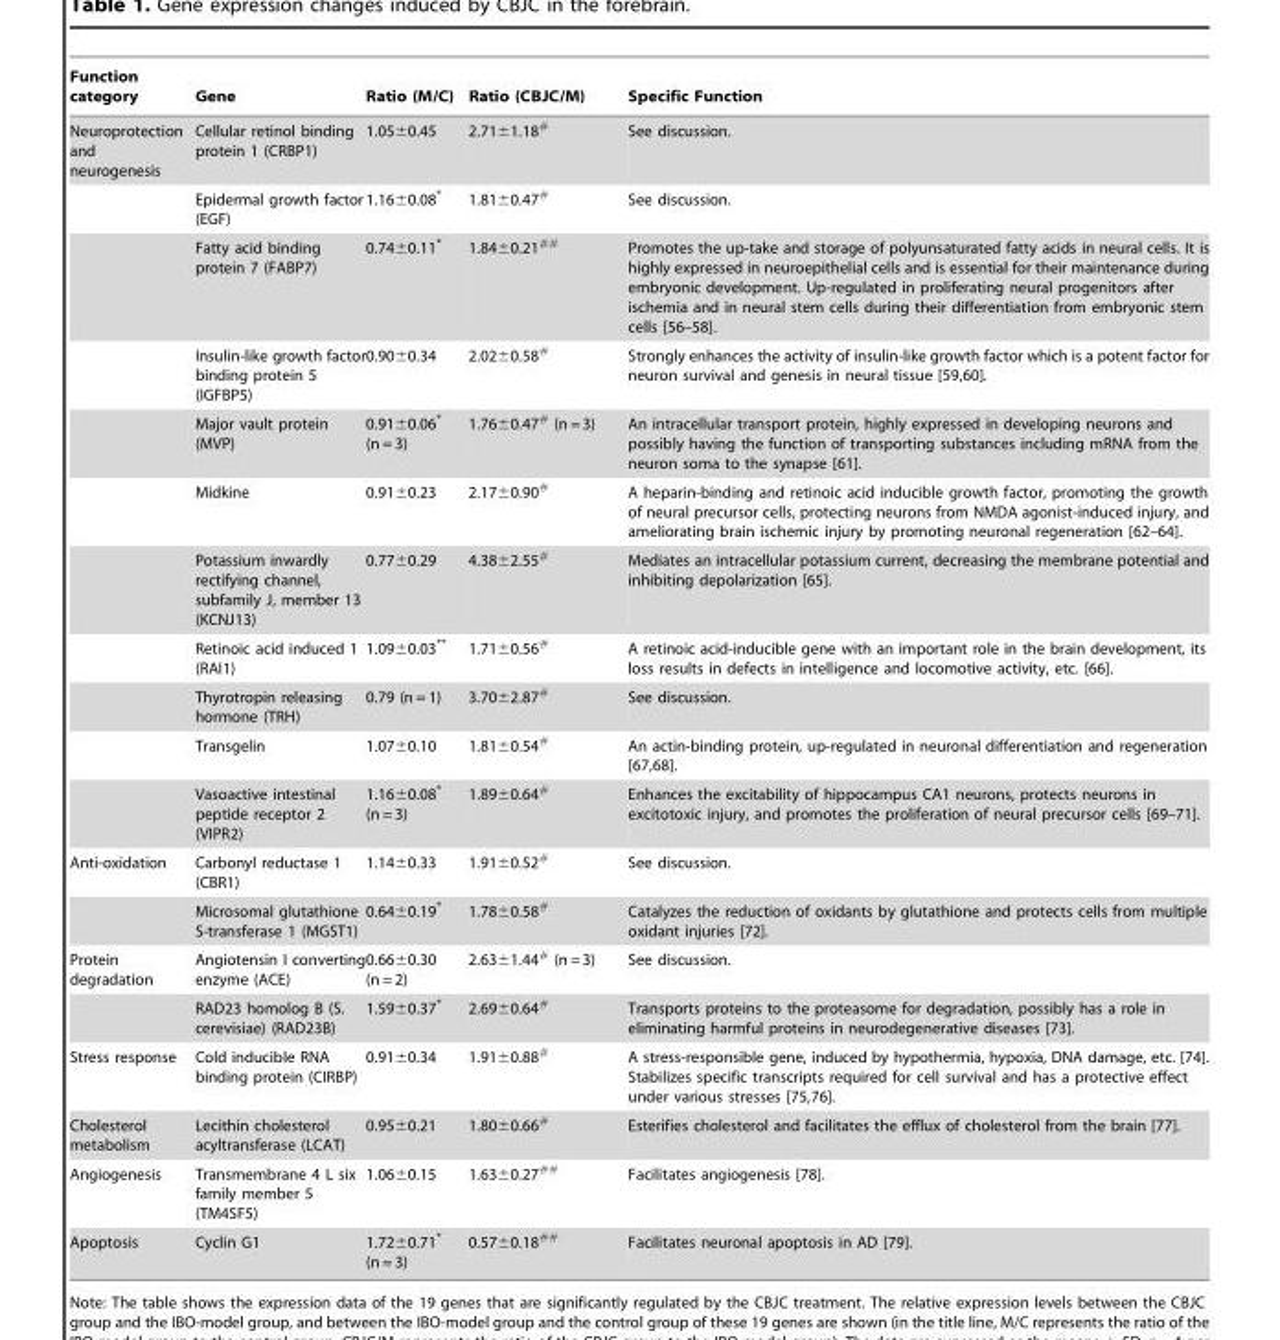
<table><thead><tr><td>Function category</td><td>Gene</td><td>Ratio (M/C)</td><td>Ratio (CBJC/M)</td><td>Specific Function</td></tr></thead><tbody><tr><td rowspan="11">Neuroprotection and neurogenesis</td><td>Cellular retinol binding protein 1 (CRBP1)</td><td>1.05±0.45</td><td>2.71±1.18<sup>#</sup></td><td>See discussion.</td></tr><tr><td>Epidermal growth factor (EGF)</td><td>1.16±0.08*</td><td>1.81±0.47<sup>#</sup></td><td>See discussion.</td></tr><tr><td>Fatty acid binding protein 7 (FABP7)</td><td>0.74±0.11*</td><td>1.84±0.21<sup>##</sup></td><td>Promotes the up-take and storage of polyunsaturated fatty acids in neural cells. It is highly expressed in neuroepithelial cells and is essential for their maintenance during embryonic development. Up-regulated in proliferating neural progenitors after ischemia and in neural stem cells during their differentiation from embryonic stem cells [56–58].</td></tr><tr><td>Insulin-like growth factor binding protein 5 (IGFBP5)</td><td>0.90±0.34</td><td>2.02±0.58<sup>#</sup></td><td>Strongly enhances the activity of insulin-like growth factor which is a potent factor for neuron survival and genesis in neural tissue [59,60].</td></tr><tr><td>Major vault protein (MVP)</td><td>0.91±0.06* (n = 3)</td><td>1.76±0.47<sup>#</sup> (n = 3)</td><td>An intracellular transport protein, highly expressed in developing neurons and possibly having the function of transporting substances including mRNA from the neuron soma to the synapse [61].</td></tr><tr><td>Midkine</td><td>0.91±0.23</td><td>2.17±0.90<sup>#</sup></td><td>A heparin-binding and retinoic acid inducible growth factor, promoting the growth of neural precursor cells, protecting neurons from NMDA agonist-induced injury, and ameliorating brain ischemic injury by promoting neuronal regeneration [62–64].</td></tr><tr><td>Potassium inwardly rectifying channel, subfamily J, member 13 (KCNJ13)</td><td>0.77±0.29</td><td>4.38±2.55<sup>#</sup></td><td>Mediates an intracellular potassium current, decreasing the membrane potential and inhibiting depolarization [65].</td></tr><tr><td>Retinoic acid induced 1 (RAI1)</td><td>1.09±0.03**</td><td>1.71±0.56<sup>#</sup></td><td>A retinoic acid-inducible gene with an important role in the brain development, its loss results in defects in intelligence and locomotive activity, etc. [66].</td></tr><tr><td>Thyrotropin releasing hormone (TRH)</td><td>0.79 (n = 1)</td><td>3.70±2.87<sup>#</sup></td><td>See discussion.</td></tr><tr><td>Transgelin</td><td>1.07±0.10</td><td>1.81±0.54<sup>#</sup></td><td>An actin-binding protein, up-regulated in neuronal differentiation and regeneration [67,68].</td></tr><tr><td>Vasoactive intestinal peptide receptor 2 (VIPR2)</td><td>1.16±0.08* (n = 3)</td><td>1.89±0.64<sup>#</sup></td><td>Enhances the excitability of hippocampus CA1 neurons, protects neurons in excitotoxic injury, and promotes the proliferation of neural precursor cells [69–71].</td></tr><tr><td rowspan="2">Anti-oxidation</td><td>Carbonyl reductase 1 (CBR1)</td><td>1.14±0.33</td><td>1.91±0.52<sup>#</sup></td><td>See discussion.</td></tr><tr><td>Microsomal glutathione S-transferase 1 (MGST1)</td><td>0.64±0.19*</td><td>1.78±0.58<sup>#</sup></td><td>Catalyzes the reduction of oxidants by glutathione and protects cells from multiple oxidant injuries [72].</td></tr><tr><td rowspan="2">Protein degradation</td><td>Angiotensin I converting enzyme (ACE)</td><td>0.66±0.30 (n = 2)</td><td>2.63±1.44<sup>#</sup> (n = 3)</td><td>See discussion.</td></tr><tr><td>RAD23 homolog B (S. cerevisiae) (RAD23B)</td><td>1.59±0.37*</td><td>2.69±0.64<sup>#</sup></td><td>Transports proteins to the proteasome for degradation, possibly has a role in eliminating harmful proteins in neurodegenerative diseases [73].</td></tr><tr><td>Stress response</td><td>Cold inducible RNA binding protein (CIRBP)</td><td>0.91±0.34</td><td>1.91±0.88<sup>#</sup></td><td>A stress-responsible gene, induced by hypothermia, hypoxia, DNA damage, etc. [74]. Stabilizes specific transcripts required for cell survival and has a protective effect under various stresses [75,76].</td></tr><tr><td>Cholesterol metabolism</td><td>Lecithin cholesterol acyltransferase (LCAT)</td><td>0.95±0.21</td><td>1.80±0.66<sup>#</sup></td><td>Esterifies cholesterol and facilitates the efflux of cholesterol from the brain [77].</td></tr><tr><td>Angiogenesis</td><td>Transmembrane 4 L six family member 5 (TM4SF5)</td><td>1.06±0.15</td><td>1.63±0.27<sup>##</sup></td><td>Facilitates angiogenesis [78].</td></tr><tr><td>Apoptosis</td><td>Cyclin G1</td><td>1.72±0.71* (n = 3)</td><td>0.57±0.18<sup>##</sup></td><td>Facilitates neuronal apoptosis in AD [79].</td></tr></tbody></table>